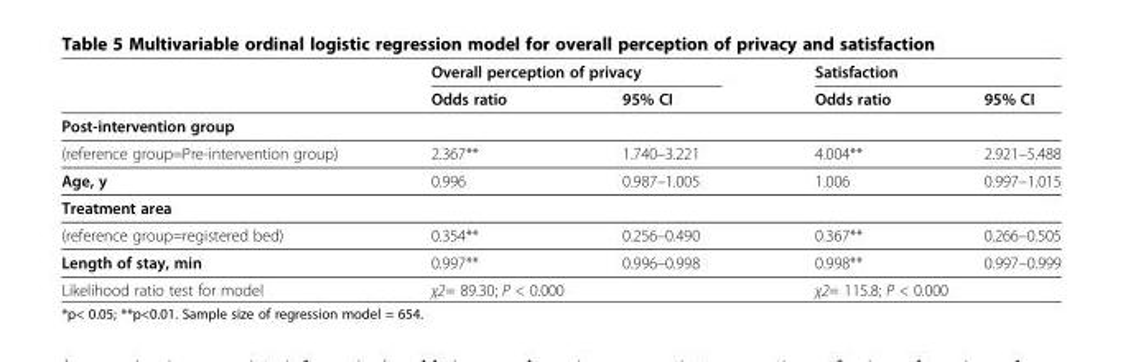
<table><thead><tr><td rowspan="2"></td><td colspan="2">Overall perception of privacy</td><td colspan="2">Satisfaction</td></tr><tr><td>Odds ratio</td><td>95% CI</td><td>Odds ratio</td><td>95% CI</td></tr></thead><tbody><tr><td colspan="5">Post-intervention group</td></tr><tr><td>(reference group=Pre-intervention group)</td><td>2.367**</td><td>1.740–3.221</td><td>4.004**</td><td>2.921–5.488</td></tr><tr><td>Age, y</td><td>0.996</td><td>0.987–1.005</td><td>1.006</td><td>0.997–1.015</td></tr><tr><td colspan="5">Treatment area</td></tr><tr><td>(reference group=registered bed)</td><td>0.354**</td><td>0.256–0.490</td><td>0.367**</td><td>0.266–0.505</td></tr><tr><td>Length of stay, min</td><td>0.997**</td><td>0.996–0.998</td><td>0.998**</td><td>0.997–0.999</td></tr><tr><td>Likelihood ratio test for model</td><td colspan="2">χ2= 89.30; P &lt; 0.000</td><td colspan="2">χ2= 115.8; P &lt; 0.000</td></tr></tbody></table>